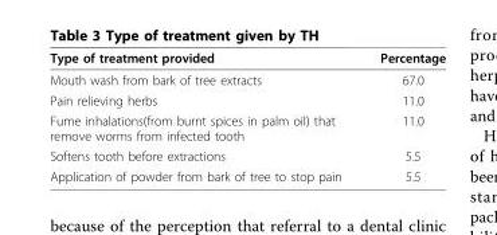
<table><thead><tr><td>Type of treatment provided</td><td>Percentage</td></tr></thead><tbody><tr><td>Mouth wash from bark of tree extracts</td><td>67.0</td></tr><tr><td>Pain relieving herbs</td><td>11.0</td></tr><tr><td>Fume inhalations(from burnt spices in palm oil) that remove worms from infected tooth</td><td>11.0</td></tr><tr><td>Softens tooth before extractions</td><td>5.5</td></tr><tr><td>Application of powder from bark of tree to stop pain</td><td>5.5</td></tr></tbody></table>